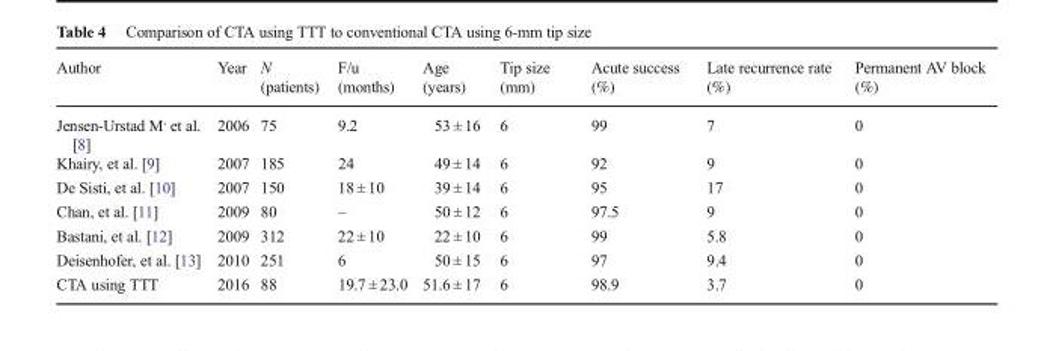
<table><thead><tr><td>Author</td><td>Year</td><td>N (patients)</td><td>F/u (months)</td><td>Age (years)</td><td>Tip size (mm)</td><td>Acute success (%)</td><td>Late recurrence rate (%)</td><td>Permanent AV block (%)</td></tr></thead><tbody><tr><td>Jensen-Urstad M<sup>,</sup> et al. [8]</td><td>2006</td><td>75</td><td>9.2</td><td>53 ± 16</td><td>6</td><td>99</td><td>7</td><td>0</td></tr><tr><td>Khairy, et al. [9]</td><td>2007</td><td>185</td><td>24</td><td>49 ± 14</td><td>6</td><td>92</td><td>9</td><td>0</td></tr><tr><td>De Sisti, et al. [10]</td><td>2007</td><td>150</td><td>18 ± 10</td><td>39 ± 14</td><td>6</td><td>95</td><td>17</td><td>0</td></tr><tr><td>Chan, et al. [11]</td><td>2009</td><td>80</td><td>–</td><td>50 ± 12</td><td>6</td><td>97.5</td><td>9</td><td>0</td></tr><tr><td>Bastani, et al. [12]</td><td>2009</td><td>312</td><td>22 ± 10</td><td>22 ± 10</td><td>6</td><td>99</td><td>5.8</td><td>0</td></tr><tr><td>Deisenhofer, et al. [13]</td><td>2010</td><td>251</td><td>6</td><td>50 ± 15</td><td>6</td><td>97</td><td>9.4</td><td>0</td></tr><tr><td>CTA using TTT</td><td>2016</td><td>88</td><td>19.7 ± 23.0</td><td>51.6 ± 17</td><td>6</td><td>98.9</td><td>3.7</td><td>0</td></tr></tbody></table>